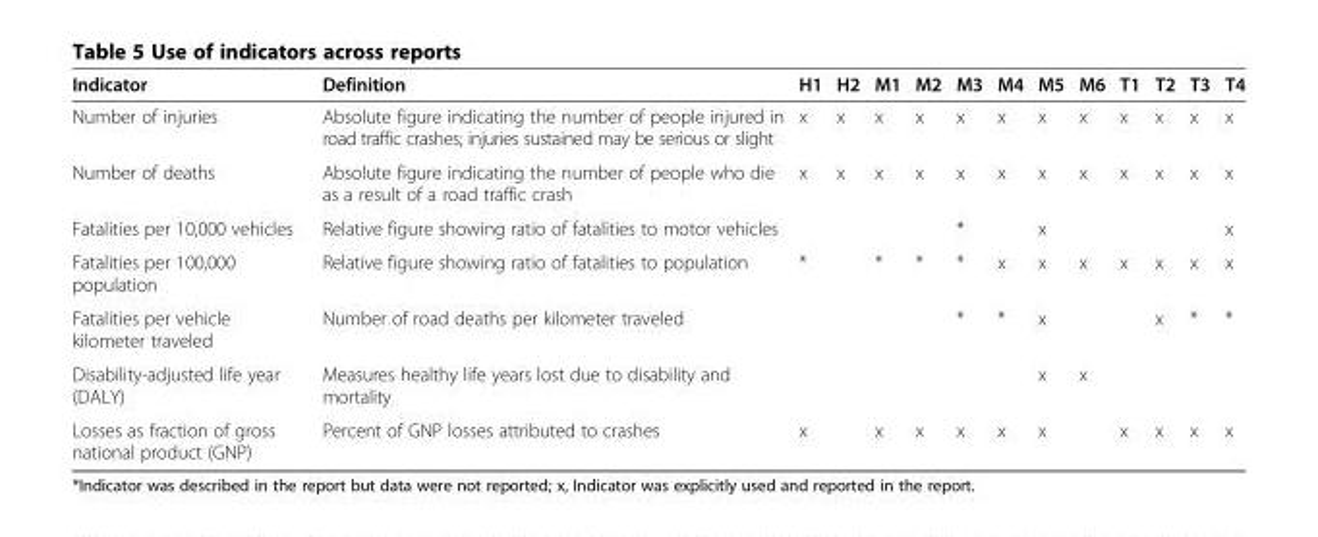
<table><thead><tr><td>Indicator</td><td>Definition</td><td>H1</td><td>H2</td><td>M1</td><td>M2</td><td>M3</td><td>M4</td><td>M5</td><td>M6</td><td>T1</td><td>T2</td><td>T3</td><td>T4</td></tr></thead><tbody><tr><td>Number of injuries</td><td>Absolute figure indicating the number of people injured in road traffic crashes; injuries sustained may be serious or slight</td><td>x</td><td>x</td><td>x</td><td>x</td><td>x</td><td>x</td><td>x</td><td>x</td><td>x</td><td>x</td><td>x</td><td>x</td></tr><tr><td>Number of deaths</td><td>Absolute figure indicating the number of people who die as a result of a road traffic crash</td><td>x</td><td>x</td><td>x</td><td>x</td><td>x</td><td>x</td><td>x</td><td>x</td><td>x</td><td>x</td><td>x</td><td>x</td></tr><tr><td>Fatalities per 10,000 vehicles</td><td>Relative figure showing ratio of fatalities to motor vehicles</td><td></td><td></td><td></td><td></td><td>*</td><td></td><td>x</td><td></td><td></td><td></td><td></td><td>x</td></tr><tr><td>Fatalities per 100,000 population</td><td>Relative figure showing ratio of fatalities to population</td><td>*</td><td></td><td>*</td><td>*</td><td>*</td><td>x</td><td>x</td><td>x</td><td>x</td><td>x</td><td>x</td><td>x</td></tr><tr><td>Fatalities per vehicle kilometer traveled</td><td>Number of road deaths per kilometer traveled</td><td></td><td></td><td></td><td></td><td>*</td><td>*</td><td>x</td><td></td><td></td><td>x</td><td>*</td><td>*</td></tr><tr><td>Disability-adjusted life year (DALY)</td><td>Measures healthy life years lost due to disability and mortality</td><td></td><td></td><td></td><td></td><td></td><td></td><td>x</td><td>x</td><td></td><td></td><td></td><td></td></tr><tr><td>Losses as fraction of gross national product (GNP)</td><td>Percent of GNP losses attributed to crashes</td><td>x</td><td></td><td>x</td><td>x</td><td>x</td><td>x</td><td>x</td><td></td><td>x</td><td>x</td><td>x</td><td>x</td></tr></tbody></table>